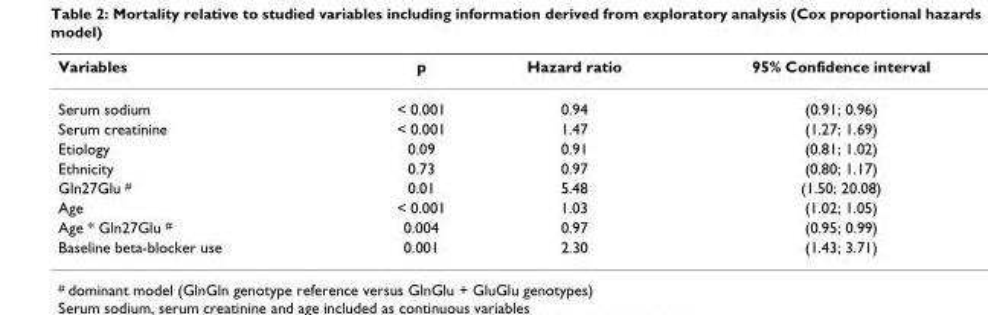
<table><thead><tr><td>Variables</td><td>p</td><td>Hazard ratio</td><td>95% Confidence interval</td></tr></thead><tbody><tr><td>Serum sodium</td><td>&lt; 0.001</td><td>0.94</td><td>(0.91; 0.96)</td></tr><tr><td>Serum creatinine</td><td>&lt; 0.001</td><td>1.47</td><td>(1.27; 1.69)</td></tr><tr><td>Etiology</td><td>0.09</td><td>0.91</td><td>(0.81; 1.02)</td></tr><tr><td>Ethnicity</td><td>0.73</td><td>0.97</td><td>(0.80; 1.17)</td></tr><tr><td>Gln27Glu <sup>#</sup></td><td>0.01</td><td>5.48</td><td>(1.50; 20.08)</td></tr><tr><td>Age</td><td>&lt; 0.001</td><td>1.03</td><td>(1.02; 1.05)</td></tr><tr><td>Age * Gln27Glu <sup>#</sup></td><td>0.004</td><td>0.97</td><td>(0.95; 0.99)</td></tr><tr><td>Baseline beta-blocker use</td><td>0.001</td><td>2.30</td><td>(1.43; 3.71)</td></tr></tbody></table>